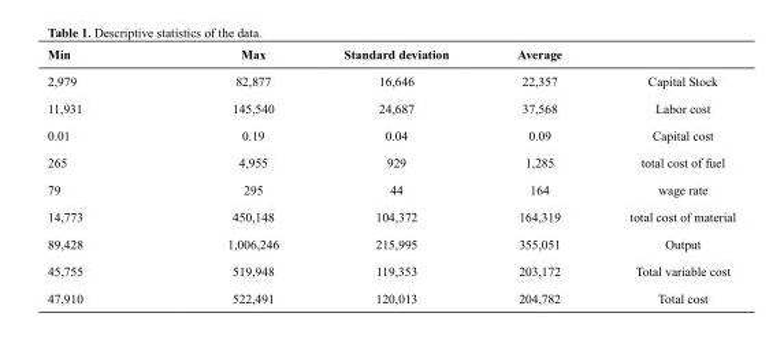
<table><thead><tr><td>Min</td><td>Max</td><td>Standard deviation</td><td>Average</td><td></td></tr></thead><tbody><tr><td>2,979</td><td>82,877</td><td>16,646</td><td>22,357</td><td>Capital Stock</td></tr><tr><td>11,931</td><td>145,540</td><td>24,687</td><td>37,568</td><td>Labor cost</td></tr><tr><td>0.01</td><td>0.19</td><td>0.04</td><td>0.09</td><td>Capital cost</td></tr><tr><td>265</td><td>4,955</td><td>929</td><td>1,285</td><td>total cost of fuel</td></tr><tr><td>79</td><td>295</td><td>44</td><td>164</td><td>wage rate</td></tr><tr><td>14,773</td><td>450,148</td><td>104,372</td><td>164,319</td><td>total cost of material</td></tr><tr><td>89,428</td><td>1,006,246</td><td>215,995</td><td>355,051</td><td>Output</td></tr><tr><td>45,755</td><td>519,948</td><td>119,353</td><td>203,172</td><td>Total variable cost</td></tr><tr><td>47,910</td><td>522,491</td><td>120,013</td><td>204,782</td><td>Total cost</td></tr></tbody></table>